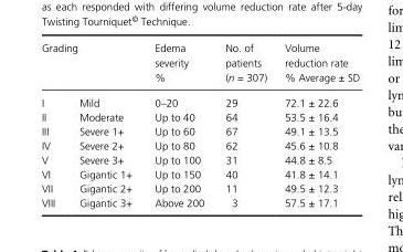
<table><thead><tr><td colspan="2">Grading</td><td rowspan="2">Edema severity % 0–20</td><td rowspan="2">No. of patients (n = 307) 29</td><td rowspan="2">Volume reduction rate % Average ± SD 72.1 ± 22.6</td></tr><tr><td>I</td><td>Mild</td></tr></thead><tbody><tr><td>II</td><td>Moderate</td><td>Up to 40</td><td>64</td><td>53.5 ± 16.4</td></tr><tr><td>III</td><td>Severe 1+</td><td>Up to 60</td><td>67</td><td>49.1 ± 13.5</td></tr><tr><td>IV</td><td>Severe 2+</td><td>Up to 80</td><td>62</td><td>45.6 ± 10.8</td></tr><tr><td>V</td><td>Severe 3+</td><td>Up to 100</td><td>31</td><td>44.8 ± 8.5</td></tr><tr><td>VI</td><td>Gigantic 1+</td><td>Up to 150</td><td>40</td><td>41.8 ± 14.1</td></tr><tr><td>VII</td><td>Gigantic 2+</td><td>Up to 200</td><td>11</td><td>49.5 ± 12.3</td></tr><tr><td>VIII</td><td>Gigantic 3+</td><td>Above 200</td><td>3</td><td>57.5 ± 17.1</td></tr></tbody></table>